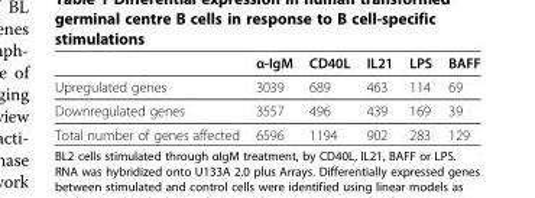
<table><thead><tr><td></td><td>α-IgM</td><td>CD40L</td><td>IL21</td><td>LPS</td><td>BAFF</td></tr></thead><tbody><tr><td>Upregulated genes</td><td>3039</td><td>689</td><td>463</td><td>114</td><td>69</td></tr><tr><td>Downregulated genes</td><td>3557</td><td>496</td><td>439</td><td>169</td><td>39</td></tr><tr><td>Total number of genes affected</td><td>6596</td><td>1194</td><td>902</td><td>283</td><td>129</td></tr></tbody></table>